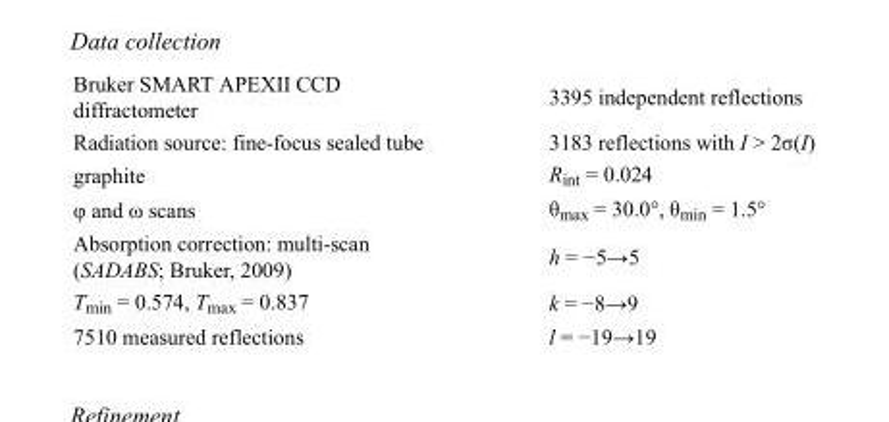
<table><tbody><tr><td>Bruker SMART APEXII CCD diffractometer</td><td>3395 independent reflections</td></tr><tr><td>Radiation source: fine-focus sealed tube</td><td>3183 reflections with I &gt; 2σ(I)</td></tr><tr><td>graphite</td><td>R<sub>int</sub> = 0.024</td></tr><tr><td>φ and ω scans</td><td>θ<sub>max</sub> = 30.0°, θ<sub>min</sub> = 1.5°</td></tr><tr><td>Absorption correction: multi-scan (SADABS; Bruker, 2009)</td><td>h = −5→5</td></tr><tr><td>T<sub>min</sub> = 0.574, T<sub>max</sub> = 0.837</td><td>k = −8→9</td></tr><tr><td>7510 measured reflections</td><td>l = −19→19</td></tr></tbody></table>